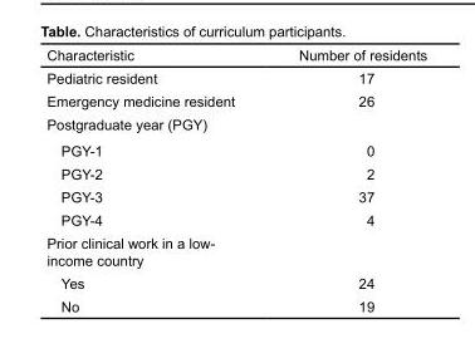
<table><thead><tr><td>Characteristic</td><td>Number of residents</td></tr></thead><tbody><tr><td>Pediatric resident</td><td>17</td></tr><tr><td>Emergency medicine resident</td><td>26</td></tr><tr><td colspan="2">Postgraduate year (PGY)</td></tr><tr><td>PGY-1</td><td>0</td></tr><tr><td>PGY-2</td><td>2</td></tr><tr><td>PGY-3</td><td>37</td></tr><tr><td>PGY-4</td><td>4</td></tr><tr><td colspan="2">Prior clinical work in a low- income country</td></tr><tr><td>Yes</td><td>24</td></tr><tr><td>No</td><td>19</td></tr></tbody></table>